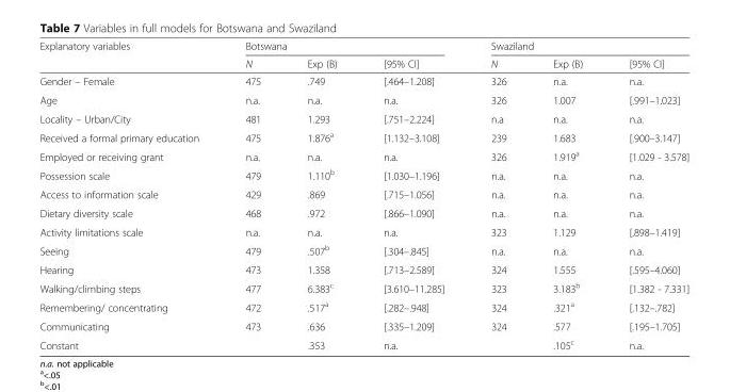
<table><thead><tr><td rowspan="2">Explanatory variables</td><td colspan="3">Botswana</td><td colspan="3">Swaziland</td></tr><tr><td>N</td><td>Exp (B)</td><td>[95% CI]</td><td>N</td><td>Exp (B)</td><td>[95% CI]</td></tr></thead><tbody><tr><td>Gender – Female</td><td>475</td><td>.749</td><td>[.464–1.208]</td><td>326</td><td>n.a.</td><td>n.a.</td></tr><tr><td>Age</td><td>n.a.</td><td>n.a.</td><td>n.a.</td><td>326</td><td>1.007</td><td>[.991–1.023]</td></tr><tr><td>Locality – Urban/City</td><td>481</td><td>1.293</td><td>[.751–2.224]</td><td>n.a</td><td>n.a.</td><td>n.a.</td></tr><tr><td>Received a formal primary education</td><td>475</td><td>1.876<sup>a</sup></td><td>[1.132–3.108]</td><td>239</td><td>1.683</td><td>[.900–3.147]</td></tr><tr><td>Employed or receiving grant</td><td>n.a.</td><td>n.a.</td><td>n.a.</td><td>326</td><td>1.919<sup>a</sup></td><td>[1.029 - 3.578]</td></tr><tr><td>Possession scale</td><td>479</td><td>1.110<sup>b</sup></td><td>[1.030–1.196]</td><td>n.a.</td><td>n.a.</td><td>n.a.</td></tr><tr><td>Access to information scale</td><td>429</td><td>.869</td><td>[.715–1.056]</td><td>n.a.</td><td>n.a.</td><td>n.a.</td></tr><tr><td>Dietary diversity scale</td><td>468</td><td>.972</td><td>[.866–1.090]</td><td>n.a.</td><td>n.a.</td><td>n.a.</td></tr><tr><td>Activity limitations scale</td><td>n.a.</td><td>n.a.</td><td>n.a.</td><td>323</td><td>1.129</td><td>[.898–1.419]</td></tr><tr><td>Seeing</td><td>479</td><td>.507<sup>b</sup></td><td>[.304–.845]</td><td>n.a.</td><td>n.a.</td><td>n.a.</td></tr><tr><td>Hearing</td><td>473</td><td>1.358</td><td>[.713–2.589]</td><td>324</td><td>1.555</td><td>[.595–4.060]</td></tr><tr><td>Walking/climbing steps</td><td>477</td><td>6.383<sup>c</sup></td><td>[3.610–11.285]</td><td>323</td><td>3.183<sup>b</sup></td><td>[1.382 - 7.331]</td></tr><tr><td>Remembering/ concentrating</td><td>472</td><td>.517<sup>a</sup></td><td>[.282–.948]</td><td>324</td><td>.321<sup>a</sup></td><td>[.132–.782]</td></tr><tr><td>Communicating</td><td>473</td><td>.636</td><td>[.335–1.209]</td><td>324</td><td>.577</td><td>[.195–1.705]</td></tr><tr><td>Constant</td><td></td><td>.353</td><td>n.a.</td><td></td><td>.105<sup>c</sup></td><td>n.a.</td></tr></tbody></table>